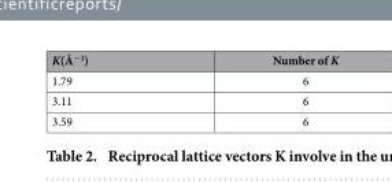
<table><thead><tr><td>K(Å<sup>−1</sup>)</td><td>Number of K</td></tr></thead><tbody><tr><td>1.79</td><td>6</td></tr><tr><td>3.11</td><td>6</td></tr><tr><td>3.59</td><td>6</td></tr></tbody></table>